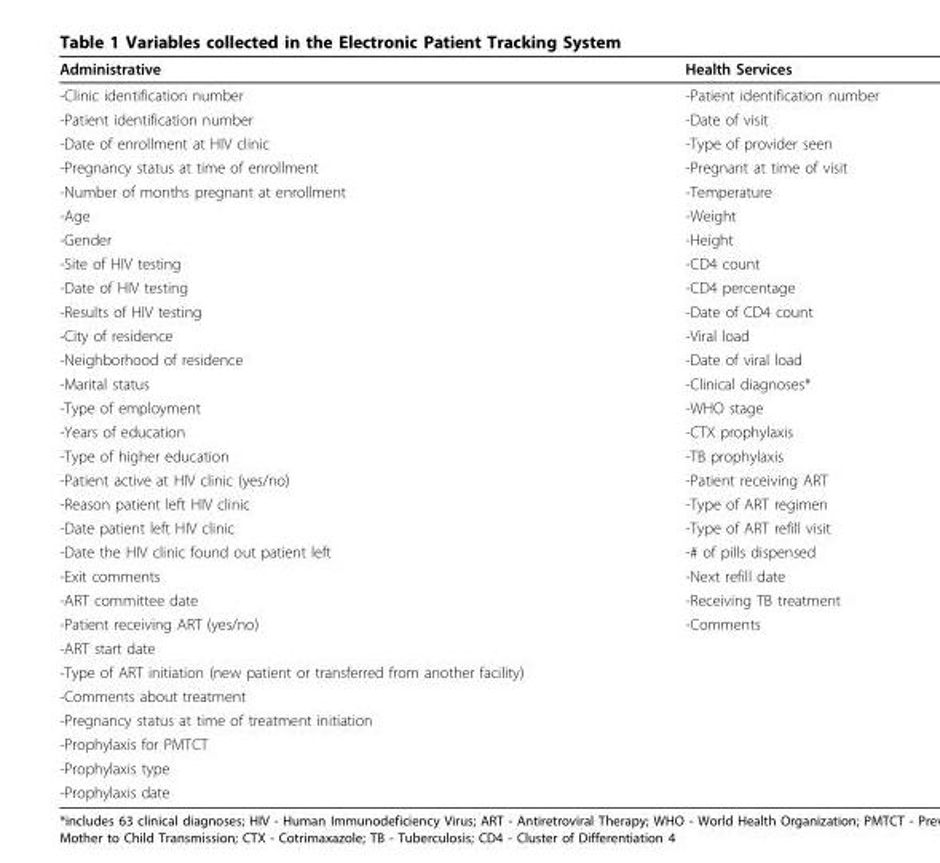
<table><thead><tr><td>Administrative</td><td>Health Services</td></tr></thead><tbody><tr><td>-Clinic identification number</td><td>-Patient identification number</td></tr><tr><td>-Patient identification number</td><td>-Date of visit</td></tr><tr><td>-Date of enrollment at HIV clinic</td><td>-Type of provider seen</td></tr><tr><td>-Pregnancy status at time of enrollment</td><td>-Pregnant at time of visit</td></tr><tr><td>-Number of months pregnant at enrollment</td><td>-Temperature</td></tr><tr><td>-Age</td><td>-Weight</td></tr><tr><td>-Gender</td><td>-Height</td></tr><tr><td>-Site of HIV testing</td><td>-CD4 count</td></tr><tr><td>-Date of HIV testing</td><td>-CD4 percentage</td></tr><tr><td>-Results of HIV testing</td><td>-Date of CD4 count</td></tr><tr><td>-City of residence</td><td>-Viral load</td></tr><tr><td>-Neighborhood of residence</td><td>-Date of viral load</td></tr><tr><td>-Marital status</td><td>-Clinical diagnoses*</td></tr><tr><td>-Type of employment</td><td>-WHO stage</td></tr><tr><td>-Years of education</td><td>-CTX prophylaxis</td></tr><tr><td>-Type of higher education</td><td>-TB prophylaxis</td></tr><tr><td>-Patient active at HIV clinic (yes/no)</td><td>-Patient receiving ART</td></tr><tr><td>-Reason patient left HIV clinic</td><td>-Type of ART regimen</td></tr><tr><td>-Date patient left HIV clinic</td><td>-Type of ART refill visit</td></tr><tr><td>-Date the HIV clinic found out patient left</td><td>-# of pills dispensed</td></tr><tr><td>-Exit comments</td><td>-Next refill date</td></tr><tr><td>-ART committee date</td><td>-Receiving TB treatment</td></tr><tr><td>-Patient receiving ART (yes/no)</td><td>-Comments</td></tr><tr><td colspan="2">-ART start date</td></tr><tr><td colspan="2">-Type of ART initiation (new patient or transferred from another facility)</td></tr><tr><td colspan="2">-Comments about treatment</td></tr><tr><td colspan="2">-Pregnancy status at time of treatment initiation</td></tr><tr><td colspan="2">-Prophylaxis for PMTCT</td></tr><tr><td colspan="2">-Prophylaxis type</td></tr><tr><td>-Prophylaxis date</td><td></td></tr></tbody></table>